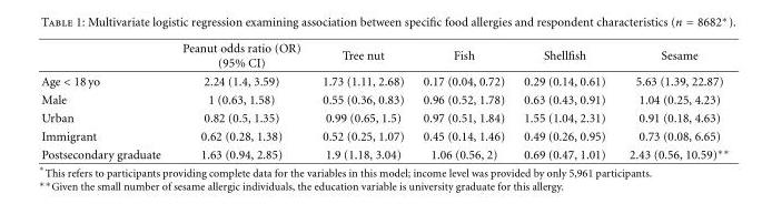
<table><thead><tr><td></td><td>Peanut odds ratio (OR) (95% CI)</td><td>Tree nut</td><td>Fish</td><td>Shellfish</td><td>Sesame</td></tr></thead><tbody><tr><td>Age &lt; 18 yo</td><td>2.24 (1.4, 3.59)</td><td>1.73 (1.11, 2.68)</td><td>0.17 (0.04, 0.72)</td><td>0.29 (0.14, 0.61)</td><td>5.63 (1.39, 22.87)</td></tr><tr><td>Male</td><td>1 (0.63, 1.58)</td><td>0.55 (0.36, 0.83)</td><td>0.96 (0.52, 1.78)</td><td>0.63 (0.43, 0.91)</td><td>1.04 (0.25, 4.23)</td></tr><tr><td>Urban</td><td>0.82 (0.5, 1.35)</td><td>0.99 (0.65, 1.5)</td><td>0.97 (0.51, 1.84)</td><td>1.55 (1.04, 2.31)</td><td>0.91 (0.18, 4.63)</td></tr><tr><td>Immigrant</td><td>0.62 (0.28, 1.38)</td><td>0.52 (0.25, 1.07)</td><td>0.45 (0.14, 1.46)</td><td>0.49 (0.26, 0.95)</td><td>0.73 (0.08, 6.65)</td></tr><tr><td>Postsecondary graduate</td><td>1.63 (0.94, 2.85)</td><td>1.9 (1.18, 3.04)</td><td>1.06 (0.56, 2)</td><td>0.69 (0.47, 1.01)</td><td>2.43 (0.56, 10.59)∗∗</td></tr></tbody></table>